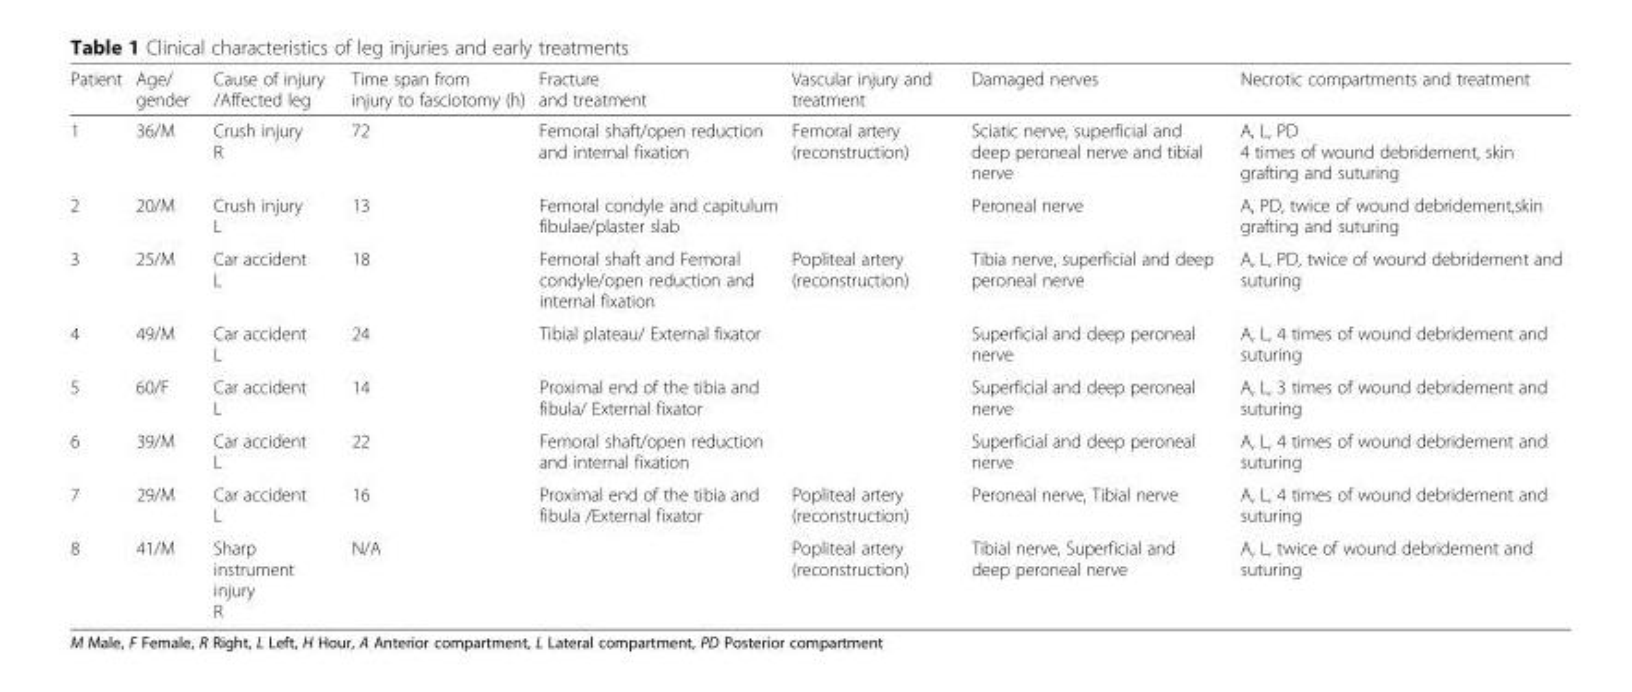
<table><thead><tr><td>Patient</td><td>Age/ gender</td><td>Cause of injury /Affected leg</td><td>Time span from injury to fasciotomy (h)</td><td>Fracture and treatment</td><td>Vascular injury and treatment</td><td>Damaged nerves</td><td>Necrotic compartments and treatment</td></tr></thead><tbody><tr><td>1</td><td>36/M</td><td>Crush injury R</td><td>72</td><td>Femoral shaft/open reduction and internal fixation</td><td>Femoral artery (reconstruction)</td><td>Sciatic nerve, superficial and deep peroneal nerve and tibial nerve</td><td>A, L, PD 4 times of wound debridement, skin grafting and suturing</td></tr><tr><td>2</td><td>20/M</td><td>Crush injury L</td><td>13</td><td>Femoral condyle and capitulum fibulae/plaster slab</td><td></td><td>Peroneal nerve</td><td>A, PD, twice of wound debridement,skin grafting and suturing</td></tr><tr><td>3</td><td>25/M</td><td>Car accident L</td><td>18</td><td>Femoral shaft and Femoral condyle/open reduction and internal fixation</td><td>Popliteal artery (reconstruction)</td><td>Tibia nerve, superficial and deep peroneal nerve</td><td>A, L, PD, twice of wound debridement and suturing</td></tr><tr><td>4</td><td>49/M</td><td>Car accident L</td><td>24</td><td>Tibial plateau/ External fixator</td><td></td><td>Superficial and deep peroneal nerve</td><td>A, L, 4 times of wound debridement and suturing</td></tr><tr><td>5</td><td>60/F</td><td>Car accident L</td><td>14</td><td>Proximal end of the tibia and fibula/ External fixator</td><td></td><td>Superficial and deep peroneal nerve</td><td>A, L, 3 times of wound debridement and suturing</td></tr><tr><td>6</td><td>39/M</td><td>Car accident L</td><td>22</td><td>Femoral shaft/open reduction and internal fixation</td><td></td><td>Superficial and deep peroneal nerve</td><td>A, L, 4 times of wound debridement and suturing</td></tr><tr><td>7</td><td>29/M</td><td>Car accident L</td><td>16</td><td>Proximal end of the tibia and fibula /External fixator</td><td>Popliteal artery (reconstruction)</td><td>Peroneal nerve, Tibial nerve</td><td>A, L, 4 times of wound debridement and suturing</td></tr><tr><td>8</td><td>41/M</td><td>Sharp instrument injury R</td><td>N/A</td><td></td><td>Popliteal artery (reconstruction)</td><td>Tibial nerve, Superficial and deep peroneal nerve</td><td>A, L, twice of wound debridement and suturing</td></tr></tbody></table>